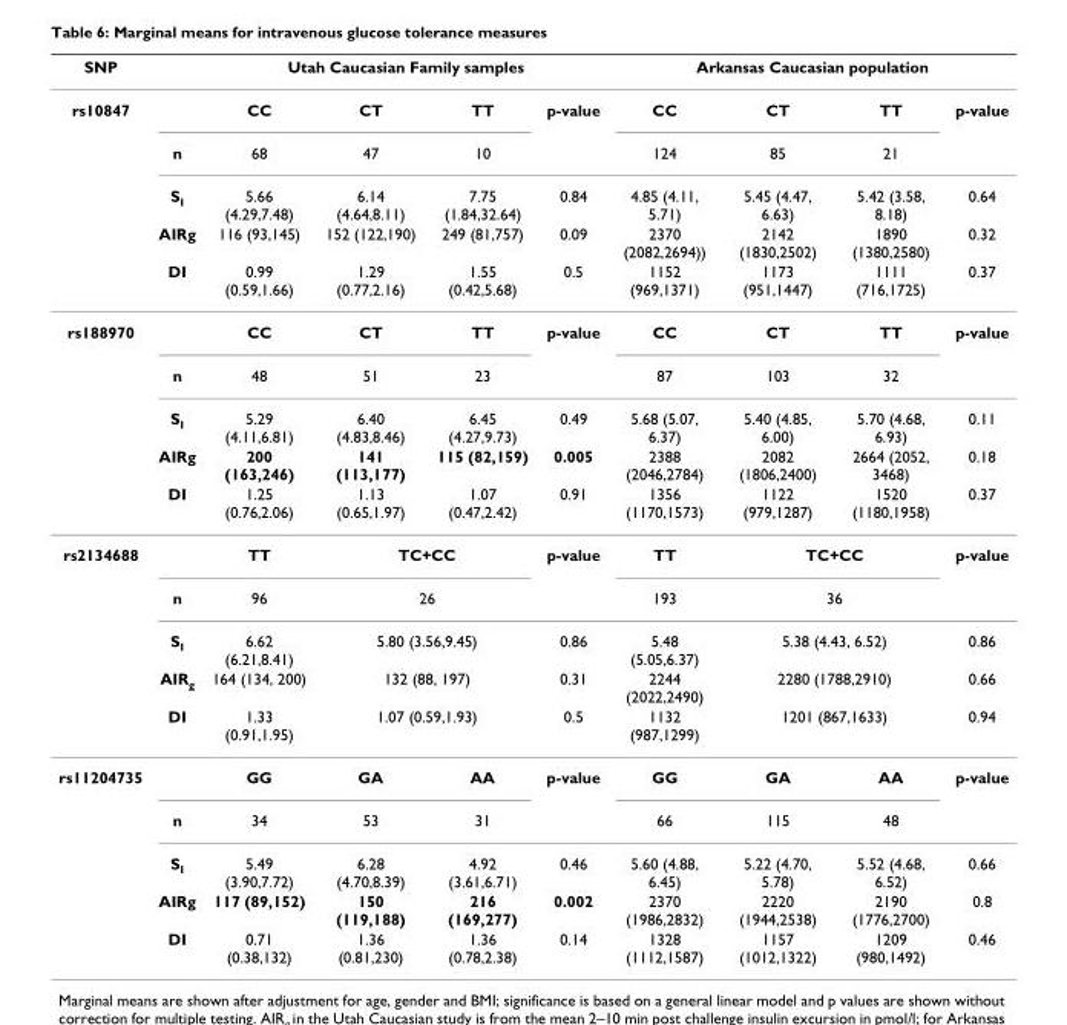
<table><thead><tr><td rowspan="2">SNP rs10847</td><td rowspan="2"></td><td colspan="4">Utah Caucasian Family samples</td><td colspan="4">Arkansas Caucasian population</td></tr><tr><td>CC</td><td>CT</td><td>TT</td><td>p-value</td><td>CC</td><td>CT</td><td>TT</td><td>p-value</td></tr></thead><tbody><tr><td></td><td>n</td><td>68</td><td>47</td><td>10</td><td></td><td>124</td><td>85</td><td>21</td><td></td></tr><tr><td></td><td>S<sub>I</sub></td><td>5.66 (4.29,7.48)</td><td>6.14 (4.64,8.11)</td><td>7.75 (1.84,32.64)</td><td>0.84</td><td>4.85 (4.11, 5.71)</td><td>5.45 (4.47, 6.63)</td><td>5.42 (3.58, 8.18)</td><td>0.64</td></tr><tr><td></td><td>AIRg</td><td>116 (93,145)</td><td>152 (122,190)</td><td>249 (81,757)</td><td>0.09</td><td>2370 (2082,2694))</td><td>2142 (1830,2502)</td><td>1890 (1380,2580)</td><td>0.32</td></tr><tr><td></td><td>DI</td><td>0.99 (0.59,1.66)</td><td>1.29 (0.77,2.16)</td><td>1.55 (0.42,5.68)</td><td>0.5</td><td>1152 (969,1371)</td><td>1173 (951,1447)</td><td>1111 (716,1725)</td><td>0.37</td></tr><tr><td rowspan="5">rs188970</td><td></td><td>CC</td><td>CT</td><td>TT</td><td>p-value</td><td>CC</td><td>CT</td><td>TT</td><td>p-value</td></tr><tr><td>n</td><td>48</td><td>51</td><td>23</td><td></td><td>87</td><td>103</td><td>32</td><td></td></tr><tr><td>S<sub>I</sub></td><td>5.29 (4.11,6.81)</td><td>6.40 (4.83,8.46)</td><td>6.45 (4.27,9.73)</td><td>0.49</td><td>5.68 (5.07, 6.37)</td><td>5.40 (4.85, 6.00)</td><td>5.70 (4.68, 6.93)</td><td>0.11</td></tr><tr><td>AIRg</td><td>200 (163,246)</td><td>141 (113,177)</td><td>115 (82,159)</td><td>0.005</td><td>2388 (2046,2784)</td><td>2082 (1806,2400)</td><td>2664 (2052, 3468)</td><td>0.18</td></tr><tr><td>DI</td><td>1.25 (0.76,2.06)</td><td>1.13 (0.65,1.97)</td><td>1.07 (0.47,2.42)</td><td>0.91</td><td>1356 (1170,1573)</td><td>1122 (979,1287)</td><td>1520 (1180,1958)</td><td>0.37</td></tr><tr><td rowspan="5">rs2134688</td><td></td><td>TT</td><td colspan="2">TC+CC</td><td>p-value</td><td>TT</td><td colspan="2">TC+CC</td><td>p-value</td></tr><tr><td>n</td><td>96</td><td colspan="2">26</td><td></td><td>193</td><td colspan="2">36</td><td></td></tr><tr><td>S<sub>I</sub></td><td>6.62 (6.21,8.41)</td><td colspan="2">5.80 (3.56,9.45)</td><td>0.86</td><td>5.48 (5.05,6.37)</td><td colspan="2">5.38 (4.43, 6.52)</td><td>0.86</td></tr><tr><td>AIR<sub>g</sub></td><td>164 (134, 200)</td><td colspan="2">132 (88, 197)</td><td>0.31</td><td>2244 (2022,2490)</td><td colspan="2">2280 (1788,2910)</td><td>0.66</td></tr><tr><td>DI</td><td>1.33 (0.91,1.95)</td><td colspan="2">1.07 (0.59,1.93)</td><td>0.5</td><td>1132 (987,1299)</td><td colspan="2">1201 (867,1633)</td><td>0.94</td></tr><tr><td rowspan="5">rs11204735</td><td></td><td>GG</td><td>GA</td><td>AA</td><td>p-value</td><td>GG</td><td>GA</td><td>AA</td><td>p-value</td></tr><tr><td>n</td><td>34</td><td>53</td><td>31</td><td></td><td>66</td><td>115</td><td>48</td><td></td></tr><tr><td>S<sub>I</sub></td><td>5.49 (3.90,7.72)</td><td>6.28 (4.70,8.39)</td><td>4.92 (3.61,6.71)</td><td>0.46</td><td>5.60 (4.88, 6.45)</td><td>5.22 (4.70, 5.78)</td><td>5.52 (4.68, 6.52)</td><td>0.66</td></tr><tr><td>AIRg</td><td>117 (89,152)</td><td>150 (119,188)</td><td>216 (169,277)</td><td>0.002</td><td>2370 (1986,2832)</td><td>2220 (1944,2538)</td><td>2190 (1776,2700)</td><td>0.8</td></tr><tr><td>DI</td><td>0.71 (0.38,132)</td><td>1.36 (0.81,230)</td><td>1.36 (0.78,2.38)</td><td>0.14</td><td>1328 (1112,1587)</td><td>1157 (1012,1322)</td><td>1209 (980,1492)</td><td>0.46</td></tr></tbody></table>